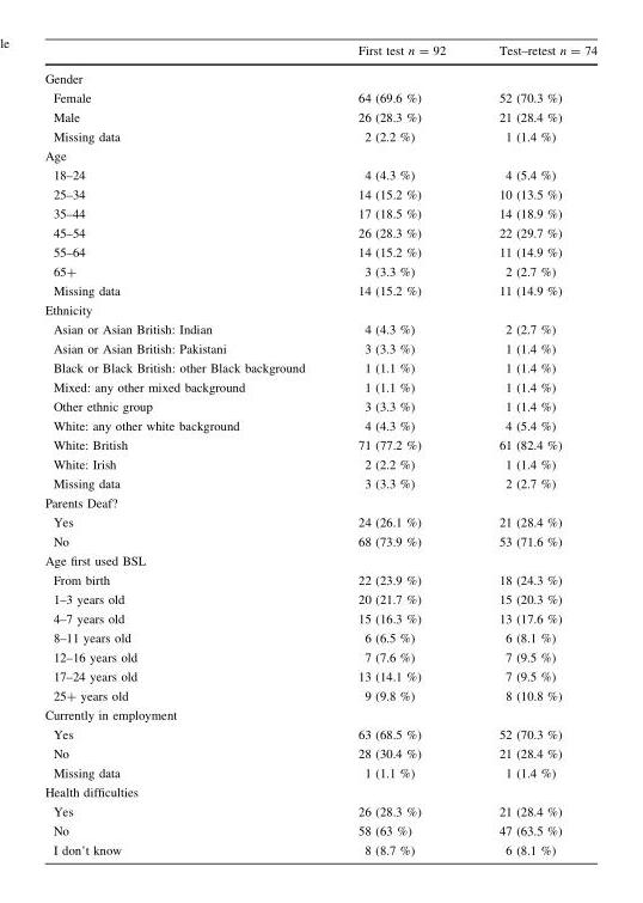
<table><thead><tr><td></td><td>First test n = 92</td><td>Test–retest n = 74</td></tr></thead><tbody><tr><td colspan="3">Gender</td></tr><tr><td>Female</td><td>64 (69.6 %)</td><td>52 (70.3 %)</td></tr><tr><td>Male</td><td>26 (28.3 %)</td><td>21 (28.4 %)</td></tr><tr><td>Missing data</td><td>2 (2.2 %)</td><td>1 (1.4 %)</td></tr><tr><td colspan="3">Age</td></tr><tr><td>18–24</td><td>4 (4.3 %)</td><td>4 (5.4 %)</td></tr><tr><td>25–34</td><td>14 (15.2 %)</td><td>10 (13.5 %)</td></tr><tr><td>35–44</td><td>17 (18.5 %)</td><td>14 (18.9 %)</td></tr><tr><td>45–54</td><td>26 (28.3 %)</td><td>22 (29.7 %)</td></tr><tr><td>55–64</td><td>14 (15.2 %)</td><td>11 (14.9 %)</td></tr><tr><td>65+</td><td>3 (3.3 %)</td><td>2 (2.7 %)</td></tr><tr><td>Missing data</td><td>14 (15.2 %)</td><td>11 (14.9 %)</td></tr><tr><td colspan="3">Ethnicity</td></tr><tr><td>Asian or Asian British: Indian</td><td>4 (4.3 %)</td><td>2 (2.7 %)</td></tr><tr><td>Asian or Asian British: Pakistani</td><td>3 (3.3 %)</td><td>1 (1.4 %)</td></tr><tr><td>Black or Black British: other Black background</td><td>1 (1.1 %)</td><td>1 (1.4 %)</td></tr><tr><td>Mixed: any other mixed background</td><td>1 (1.1 %)</td><td>1 (1.4 %)</td></tr><tr><td>Other ethnic group</td><td>3 (3.3 %)</td><td>1 (1.4 %)</td></tr><tr><td>White: any other white background</td><td>4 (4.3 %)</td><td>4 (5.4 %)</td></tr><tr><td>White: British</td><td>71 (77.2 %)</td><td>61 (82.4 %)</td></tr><tr><td>White: Irish</td><td>2 (2.2 %)</td><td>1 (1.4 %)</td></tr><tr><td>Missing data</td><td>3 (3.3 %)</td><td>2 (2.7 %)</td></tr><tr><td colspan="3">Parents Deaf?</td></tr><tr><td>Yes</td><td>24 (26.1 %)</td><td>21 (28.4 %)</td></tr><tr><td>No</td><td>68 (73.9 %)</td><td>53 (71.6 %)</td></tr><tr><td colspan="3">Age first used BSL</td></tr><tr><td>From birth</td><td>22 (23.9 %)</td><td>18 (24.3 %)</td></tr><tr><td>1–3 years old</td><td>20 (21.7 %)</td><td>15 (20.3 %)</td></tr><tr><td>4–7 years old</td><td>15 (16.3 %)</td><td>13 (17.6 %)</td></tr><tr><td>8–11 years old</td><td>6 (6.5 %)</td><td>6 (8.1 %)</td></tr><tr><td>12–16 years old</td><td>7 (7.6 %)</td><td>7 (9.5 %)</td></tr><tr><td>17–24 years old</td><td>13 (14.1 %)</td><td>7 (9.5 %)</td></tr><tr><td>25+ years old</td><td>9 (9.8 %)</td><td>8 (10.8 %)</td></tr><tr><td colspan="3">Currently in employment</td></tr><tr><td>Yes</td><td>63 (68.5 %)</td><td>52 (70.3 %)</td></tr><tr><td>No</td><td>28 (30.4 %)</td><td>21 (28.4 %)</td></tr><tr><td>Missing data</td><td>1 (1.1 %)</td><td>1 (1.4 %)</td></tr><tr><td colspan="3">Health difficulties</td></tr><tr><td>Yes</td><td>26 (28.3 %)</td><td>21 (28.4 %)</td></tr><tr><td>No</td><td>58 (63 %)</td><td>47 (63.5 %)</td></tr><tr><td>I don’t know</td><td>8 (8.7 %)</td><td>6 (8.1 %)</td></tr></tbody></table>